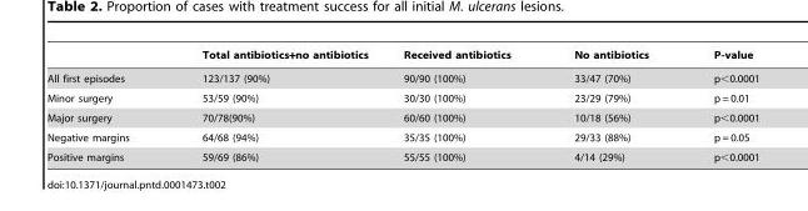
<table><thead><tr><td></td><td>Total antibiotics+no antibiotics</td><td>Received antibiotics</td><td>No antibiotics</td><td>P-value</td></tr></thead><tbody><tr><td>All first episodes</td><td>123/137 (90%)</td><td>90/90 (100%)</td><td>33/47 (70%)</td><td>p&lt;0.0001</td></tr><tr><td>Minor surgery</td><td>53/59 (90%)</td><td>30/30 (100%)</td><td>23/29 (79%)</td><td>p = 0.01</td></tr><tr><td>Major surgery</td><td>70/78(90%)</td><td>60/60 (100%)</td><td>10/18 (56%)</td><td>p&lt;0.0001</td></tr><tr><td>Negative margins</td><td>64/68 (94%)</td><td>35/35 (100%)</td><td>29/33 (88%)</td><td>p = 0.05</td></tr><tr><td>Positive margins</td><td>59/69 (86%)</td><td>55/55 (100%)</td><td>4/14 (29%)</td><td>p&lt;0.0001</td></tr></tbody></table>